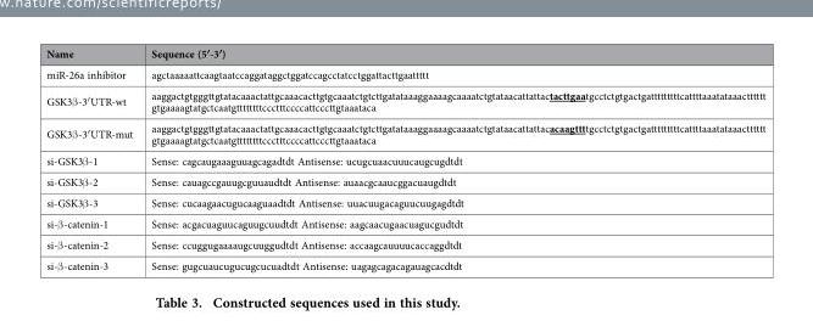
<table><thead><tr><td>Name</td><td>Sequence (5′-3′)</td></tr></thead><tbody><tr><td>miR-26a inhibitor</td><td>agctaaaaattcaagtaatccaggataggctggatccagcctatcctggattacttgaattttt</td></tr><tr><td>GSK3β -3′ UTR-wt</td><td>aaggactgtgggttgtatacaaactattgcaaacacttgtgcaaatctgtcttgatataaaggaaaagcaaaatctgtataacattattactacttgaatgcctctgtgactgatttttttttcattttaaatataaactttttt gtgaaaagtatgctcaatgttttttttccctttccccattcccttgtaaataca</td></tr><tr><td>GSK3β -3′ UTR-mut</td><td>aaggactgtgggttgtatacaaactattgcaaacacttgtgcaaatctgtcttgatataaaggaaaagcaaaatctgtataacattattacacaagttttgcctctgtgactgatttttttttcattttaaatataaactttttt gtgaaaagtatgctcaatgttttttttccctttccccattcccttgtaaataca</td></tr><tr><td>si-GSK3β -1</td><td>Sense: cagcaugaaaguuagcagadtdt Antisense: ucugcuaacuuucaugcugdtdt</td></tr><tr><td>si-GSK3β -2</td><td>Sense: cauagccgauugcguuaudtdt Antisense: auaacgcaaucggacuaugdtdt</td></tr><tr><td>si-GSK3β -3</td><td>Sense: cucaagaacugucaaguaadtdt Antisense: uuacuugacaguucuugagdtdt</td></tr><tr><td>si-β -catenin-1</td><td>Sense: acgacuaguucaguugcuudtdt Antisense: aagcaacugaacuagucgudtdt</td></tr><tr><td>si-β -catenin-2</td><td>Sense: ccuggugaaaaugcuuggudtdt Antisense: accaagcauuuucaccaggdtdt</td></tr><tr><td>si-β -catenin-3</td><td>Sense: gugcuaucugucugcucuadtdt Antisense: uagagcagacagauagcacdtdt</td></tr></tbody></table>